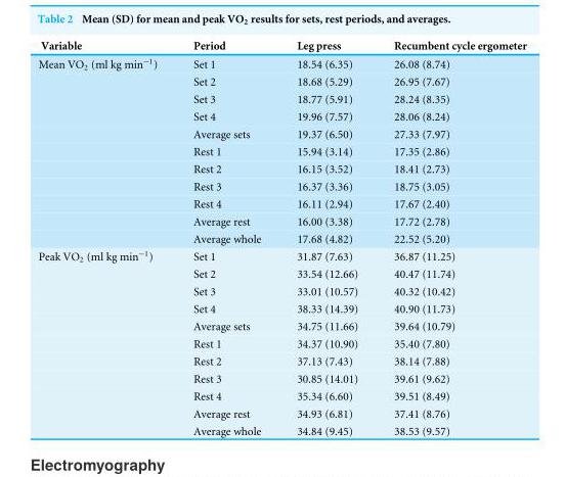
<table><thead><tr><td>Variable</td><td>Period</td><td>Leg press</td><td>Recumbent cycle ergometer</td></tr></thead><tbody><tr><td rowspan="11">Mean VO<sub>2</sub> (ml kg min<sup>−1</sup>)</td><td>Set 1</td><td>18.54 (6.35)</td><td>26.08 (8.74)</td></tr><tr><td>Set 2</td><td>18.68 (5.29)</td><td>26.95 (7.67)</td></tr><tr><td>Set 3</td><td>18.77 (5.91)</td><td>28.24 (8.35)</td></tr><tr><td>Set 4</td><td>19.96 (7.57)</td><td>28.06 (8.24)</td></tr><tr><td>Average sets</td><td>19.37 (6.50)</td><td>27.33 (7.97)</td></tr><tr><td>Rest 1</td><td>15.94 (3.14)</td><td>17.35 (2.86)</td></tr><tr><td>Rest 2</td><td>16.15 (3.52)</td><td>18.41 (2.73)</td></tr><tr><td>Rest 3</td><td>16.37 (3.36)</td><td>18.75 (3.05)</td></tr><tr><td>Rest 4</td><td>16.11 (2.94)</td><td>17.67 (2.40)</td></tr><tr><td>Average rest</td><td>16.00 (3.38)</td><td>17.72 (2.78)</td></tr><tr><td>Average whole</td><td>17.68 (4.82)</td><td>22.52 (5.20)</td></tr><tr><td rowspan="11">Peak VO<sub>2</sub> (ml kg min<sup>−1</sup>)</td><td>Set 1</td><td>31.87 (7.63)</td><td>36.87 (11.25)</td></tr><tr><td>Set 2</td><td>33.54 (12.66)</td><td>40.47 (11.74)</td></tr><tr><td>Set 3</td><td>33.01 (10.57)</td><td>40.32 (10.42)</td></tr><tr><td>Set 4</td><td>38.33 (14.39)</td><td>40.90 (11.73)</td></tr><tr><td>Average sets</td><td>34.75 (11.66)</td><td>39.64 (10.79)</td></tr><tr><td>Rest 1</td><td>34.37 (10.90)</td><td>35.40 (7.80)</td></tr><tr><td>Rest 2</td><td>37.13 (7.43)</td><td>38.14 (7.88)</td></tr><tr><td>Rest 3</td><td>30.85 (14.01)</td><td>39.61 (9.62)</td></tr><tr><td>Rest 4</td><td>35.34 (6.60)</td><td>39.51 (8.49)</td></tr><tr><td>Average rest</td><td>34.93 (6.81)</td><td>37.41 (8.76)</td></tr><tr><td>Average whole</td><td>34.84 (9.45)</td><td>38.53 (9.57)</td></tr></tbody></table>